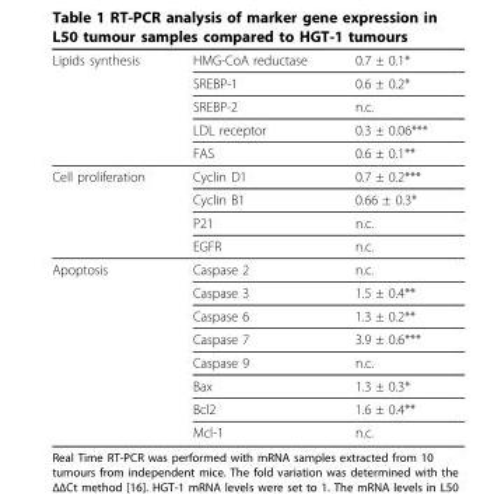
<table><thead><tr><td rowspan="5">Lipids synthesis</td><td rowspan="5">HMG-CoA reductase SREBP-1 SREBP-2 LDL receptor FAS</td><td rowspan="5">0.7 ± 0.1* 0.6 ± 0.2* n.c. 0.3 ± 0.06*** 0.6 ± 0.1**</td></tr><tr></tr><tr></tr><tr></tr><tr></tr></thead><tbody><tr><td rowspan="4">Cell proliferation</td><td>Cyclin D1</td><td>0.7 ± 0.2***</td></tr><tr><td>Cyclin B1</td><td>0.66 ± 0.3*</td></tr><tr><td>P21</td><td>n.c.</td></tr><tr><td>EGFR</td><td>n.c.</td></tr><tr><td rowspan="8">Apoptosis</td><td>Caspase 2</td><td>n.c.</td></tr><tr><td>Caspase 3</td><td>1.5 ± 0.4**</td></tr><tr><td>Caspase 6</td><td>1.3 ± 0.2**</td></tr><tr><td>Caspase 7</td><td>3.9 ± 0.6***</td></tr><tr><td>Caspase 9</td><td>n.c.</td></tr><tr><td>Bax</td><td>1.3 ± 0.3*</td></tr><tr><td>Bcl2</td><td>1.6 ± 0.4**</td></tr><tr><td>Mcl-1</td><td>n.c.</td></tr></tbody></table>